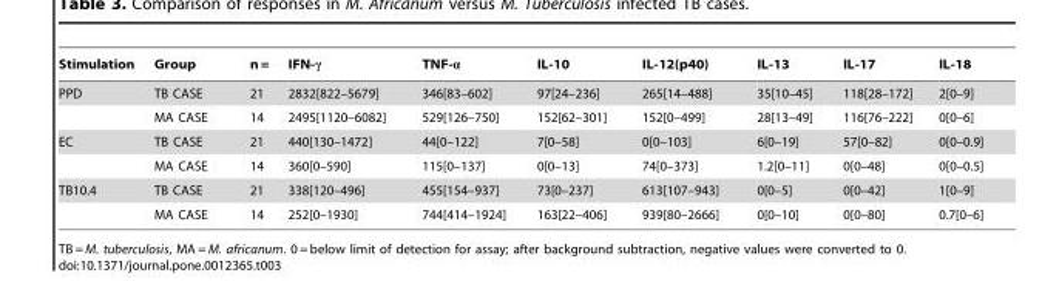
<table><thead><tr><td>Stimulation</td><td>Group</td><td>n =</td><td>IFN-γ</td><td>TNF-α</td><td>IL-10</td><td>IL-12(p40)</td><td>IL-13</td><td>IL-17</td><td>IL-18</td></tr></thead><tbody><tr><td rowspan="2">PPD</td><td>TB CASE</td><td>21</td><td>2832[822–5679]</td><td>346[83–602]</td><td>97[24–236]</td><td>265[14–488]</td><td>35[10–45]</td><td>118[28–172]</td><td>2[0–9]</td></tr><tr><td>MA CASE</td><td>14</td><td>2495[1120–6082]</td><td>529[126–750]</td><td>152[62–301]</td><td>152[0–499]</td><td>28[13–49]</td><td>116[76–222]</td><td>0[0–6]</td></tr><tr><td rowspan="2">EC</td><td>TB CASE</td><td>21</td><td>440[130–1472]</td><td>44[0–122]</td><td>7[0–58]</td><td>0[0–103]</td><td>6[0–19]</td><td>57[0–82]</td><td>0[0–0.9]</td></tr><tr><td>MA CASE</td><td>14</td><td>360[0–590]</td><td>115[0–137]</td><td>0[0–13]</td><td>74[0–373]</td><td>1.2[0–11]</td><td>0[0–48]</td><td>0[0–0.5]</td></tr><tr><td rowspan="2">TB10.4</td><td>TB CASE</td><td>21</td><td>338[120–496]</td><td>455[154–937]</td><td>73[0–237]</td><td>613[107–943]</td><td>0[0–5]</td><td>0[0–42]</td><td>1[0–9]</td></tr><tr><td>MA CASE</td><td>14</td><td>252[0–1930]</td><td>744[414–1924]</td><td>163[22–406]</td><td>939[80–2666]</td><td>0[0–10]</td><td>0[0–80]</td><td>0.7[0–6]</td></tr></tbody></table>